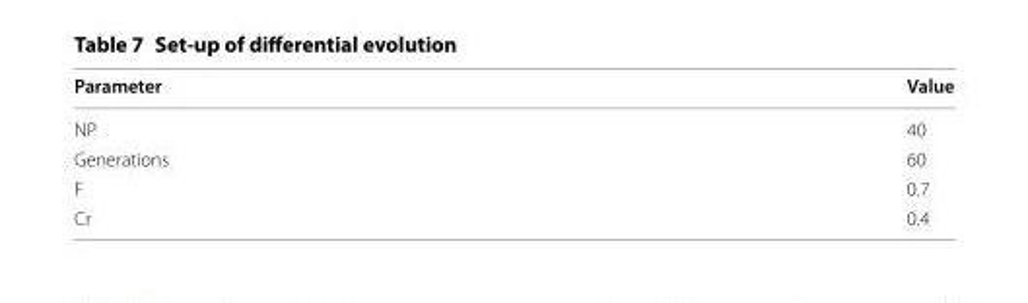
<table><thead><tr><td>Parameter</td><td>Value</td></tr></thead><tbody><tr><td>NP</td><td>40</td></tr><tr><td>Generations</td><td>60</td></tr><tr><td>F</td><td>0.7</td></tr><tr><td>Cr</td><td>0.4</td></tr></tbody></table>